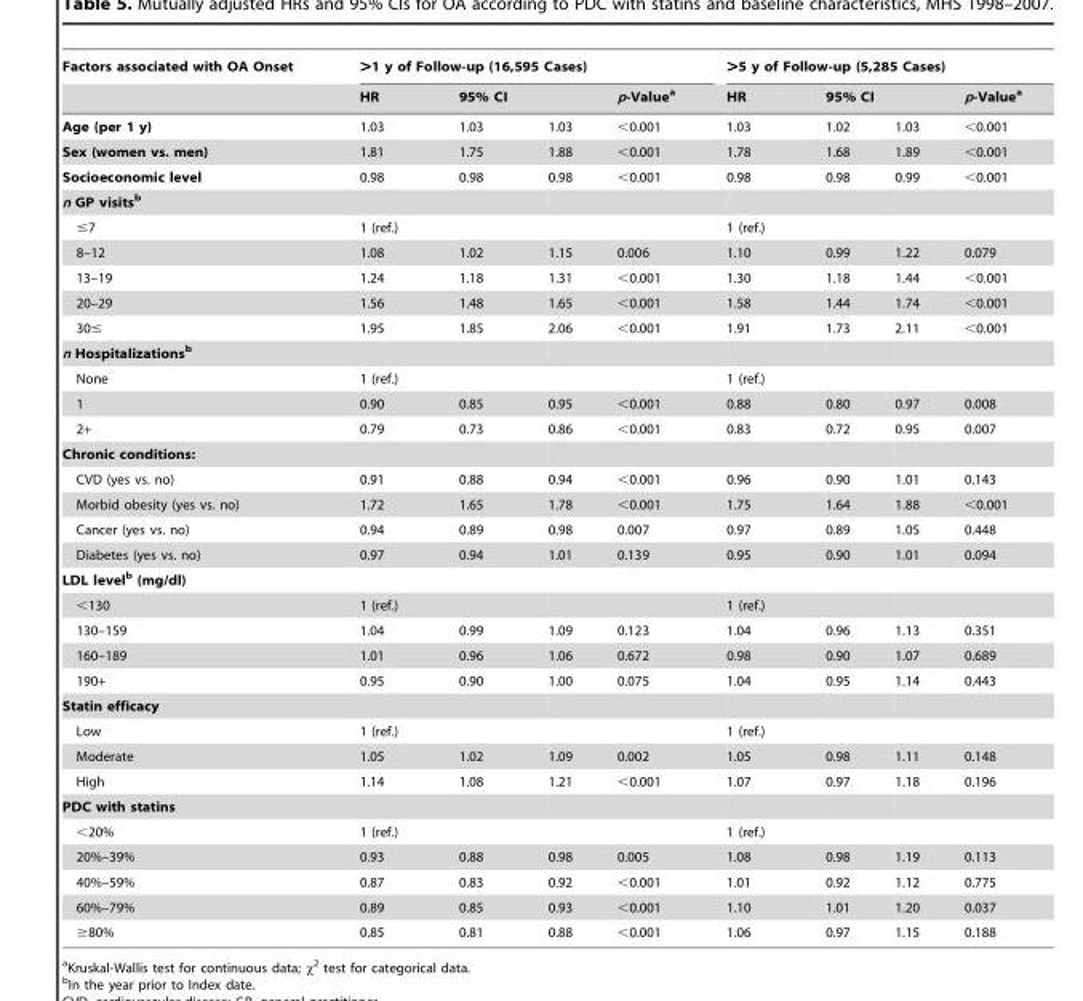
<table><thead><tr><td rowspan="3">Factors associated with OA Onset Age (per 1 y)</td><td colspan="4">&gt;1 y of Follow-up (16,595 Cases)</td><td colspan="4">&gt;5 y of Follow-up (5,285 Cases)</td></tr><tr><td rowspan="2">HR 1.03</td><td colspan="2">95% CI</td><td rowspan="2">p-Value<sup>a</sup> &lt;0.001</td><td rowspan="2">HR 1.03</td><td colspan="2">95% CI</td><td rowspan="2">p-Value<sup>a</sup> &lt;0.001</td></tr><tr><td>1.03</td><td>1.03</td><td>1.02</td><td>1.03</td></tr></thead><tbody><tr><td>Sex (women vs. men)</td><td>1.81</td><td>1.75</td><td>1.88</td><td>&lt;0.001</td><td>1.78</td><td>1.68</td><td>1.89</td><td>&lt;0.001</td></tr><tr><td>Socioeconomic level</td><td>0.98</td><td>0.98</td><td>0.98</td><td>&lt;0.001</td><td>0.98</td><td>0.98</td><td>0.99</td><td>&lt;0.001</td></tr><tr><td colspan="9">n GP visitsb</td></tr><tr><td>≤7</td><td>1 (ref.)</td><td></td><td></td><td></td><td>1 (ref.)</td><td></td><td></td><td></td></tr><tr><td>8–12</td><td>1.08</td><td>1.02</td><td>1.15</td><td>0.006</td><td>1.10</td><td>0.99</td><td>1.22</td><td>0.079</td></tr><tr><td>13–19</td><td>1.24</td><td>1.18</td><td>1.31</td><td>&lt;0.001</td><td>1.30</td><td>1.18</td><td>1.44</td><td>&lt;0.001</td></tr><tr><td>20–29</td><td>1.56</td><td>1.48</td><td>1.65</td><td>&lt;0.001</td><td>1.58</td><td>1.44</td><td>1.74</td><td>&lt;0.001</td></tr><tr><td>30≤</td><td>1.95</td><td>1.85</td><td>2.06</td><td>&lt;0.001</td><td>1.91</td><td>1.73</td><td>2.11</td><td>&lt;0.001</td></tr><tr><td colspan="9">n Hospitalizationsb</td></tr><tr><td>None</td><td>1 (ref.)</td><td></td><td></td><td></td><td>1 (ref.)</td><td></td><td></td><td></td></tr><tr><td>1</td><td>0.90</td><td>0.85</td><td>0.95</td><td>&lt;0.001</td><td>0.88</td><td>0.80</td><td>0.97</td><td>0.008</td></tr><tr><td>2+</td><td>0.79</td><td>0.73</td><td>0.86</td><td>&lt;0.001</td><td>0.83</td><td>0.72</td><td>0.95</td><td>0.007</td></tr><tr><td colspan="9">Chronic conditions:</td></tr><tr><td>CVD (yes vs. no)</td><td>0.91</td><td>0.88</td><td>0.94</td><td>&lt;0.001</td><td>0.96</td><td>0.90</td><td>1.01</td><td>0.143</td></tr><tr><td>Morbid obesity (yes vs. no)</td><td>1.72</td><td>1.65</td><td>1.78</td><td>&lt;0.001</td><td>1.75</td><td>1.64</td><td>1.88</td><td>&lt;0.001</td></tr><tr><td>Cancer (yes vs. no)</td><td>0.94</td><td>0.89</td><td>0.98</td><td>0.007</td><td>0.97</td><td>0.89</td><td>1.05</td><td>0.448</td></tr><tr><td>Diabetes (yes vs. no)</td><td>0.97</td><td>0.94</td><td>1.01</td><td>0.139</td><td>0.95</td><td>0.90</td><td>1.01</td><td>0.094</td></tr><tr><td colspan="9">LDL levelb (mg/dl)</td></tr><tr><td>&lt;130</td><td>1 (ref.)</td><td></td><td></td><td></td><td>1 (ref.)</td><td></td><td></td><td></td></tr><tr><td>130–159</td><td>1.04</td><td>0.99</td><td>1.09</td><td>0.123</td><td>1.04</td><td>0.96</td><td>1.13</td><td>0.351</td></tr><tr><td>160–189</td><td>1.01</td><td>0.96</td><td>1.06</td><td>0.672</td><td>0.98</td><td>0.90</td><td>1.07</td><td>0.689</td></tr><tr><td>190+</td><td>0.95</td><td>0.90</td><td>1.00</td><td>0.075</td><td>1.04</td><td>0.95</td><td>1.14</td><td>0.443</td></tr><tr><td colspan="9">Statin efficacy</td></tr><tr><td>Low</td><td>1 (ref.)</td><td></td><td></td><td></td><td>1 (ref.)</td><td></td><td></td><td></td></tr><tr><td>Moderate</td><td>1.05</td><td>1.02</td><td>1.09</td><td>0.002</td><td>1.05</td><td>0.98</td><td>1.11</td><td>0.148</td></tr><tr><td>High</td><td>1.14</td><td>1.08</td><td>1.21</td><td>&lt;0.001</td><td>1.07</td><td>0.97</td><td>1.18</td><td>0.196</td></tr><tr><td colspan="9">PDC with statins</td></tr><tr><td>&lt;20%</td><td>1 (ref.)</td><td></td><td></td><td></td><td>1 (ref.)</td><td></td><td></td><td></td></tr><tr><td>20%–39%</td><td>0.93</td><td>0.88</td><td>0.98</td><td>0.005</td><td>1.08</td><td>0.98</td><td>1.19</td><td>0.113</td></tr><tr><td>40%–59%</td><td>0.87</td><td>0.83</td><td>0.92</td><td>&lt;0.001</td><td>1.01</td><td>0.92</td><td>1.12</td><td>0.775</td></tr><tr><td>60%–79%</td><td>0.89</td><td>0.85</td><td>0.93</td><td>&lt;0.001</td><td>1.10</td><td>1.01</td><td>1.20</td><td>0.037</td></tr><tr><td>≥80%</td><td>0.85</td><td>0.81</td><td>0.88</td><td>&lt;0.001</td><td>1.06</td><td>0.97</td><td>1.15</td><td>0.188</td></tr></tbody></table>